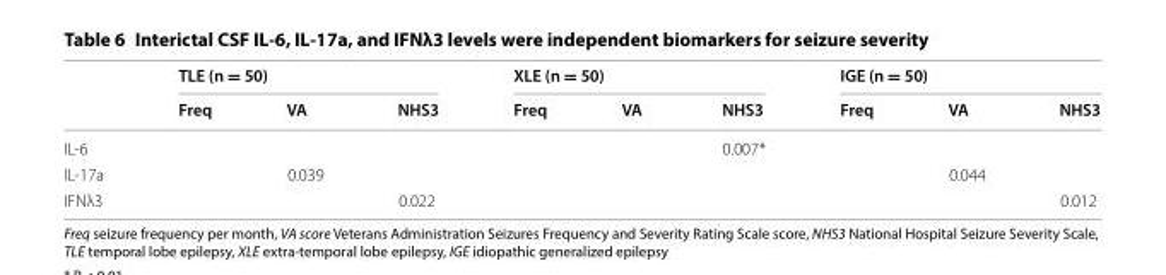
<table><thead><tr><td rowspan="2"></td><td colspan="3">TLE (n = 50)</td><td colspan="3">XLE (n = 50)</td><td colspan="3">IGE (n = 50)</td></tr><tr><td>Freq</td><td>VA</td><td>NHS3</td><td>Freq</td><td>VA</td><td>NHS3</td><td>Freq</td><td>VA</td><td>NHS3</td></tr></thead><tbody><tr><td>IL-6</td><td></td><td></td><td></td><td></td><td></td><td>0.007*</td><td></td><td></td><td></td></tr><tr><td>IL-17a</td><td></td><td>0.039</td><td></td><td></td><td></td><td></td><td></td><td>0.044</td><td></td></tr><tr><td>IFNλ3</td><td></td><td></td><td>0.022</td><td></td><td></td><td></td><td></td><td></td><td>0.012</td></tr></tbody></table>